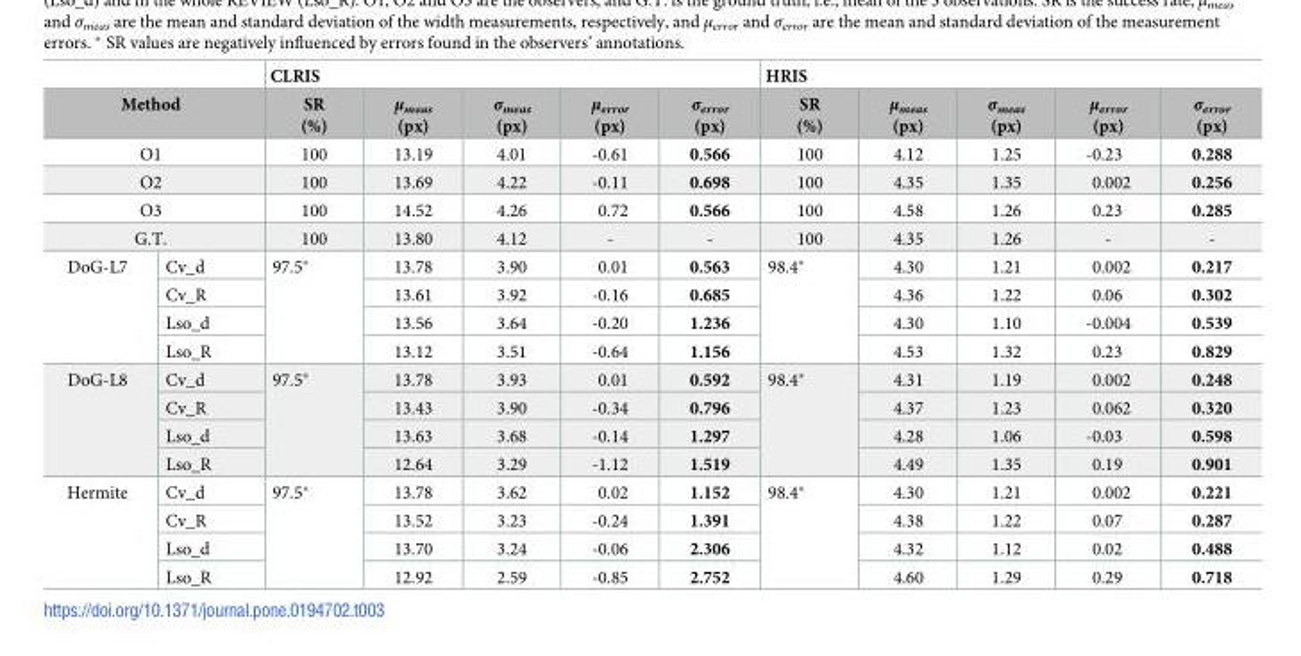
<table><thead><tr><td></td><td></td><td colspan="5">CLRIS</td><td colspan="5">HRIS</td></tr><tr><td colspan="2">Method</td><td>SR (%)</td><td>μ<sub>meas</sub> (px)</td><td>σ<sub>meas</sub> (px)</td><td>μ<sub>error</sub> (px)</td><td>σ<sub>error</sub> (px)</td><td>SR (%)</td><td>μ<sub>meas</sub> (px)</td><td>σ<sub>meas</sub> (px)</td><td>μ<sub>error</sub> (px)</td><td>σ<sub>error</sub> (px)</td></tr></thead><tbody><tr><td colspan="2">O1</td><td>100</td><td>13.19</td><td>4.01</td><td>-0.61</td><td>0.566</td><td>100</td><td>4.12</td><td>1.25</td><td>-0.23</td><td>0.288</td></tr><tr><td colspan="2">O2</td><td>100</td><td>13.69</td><td>4.22</td><td>-0.11</td><td>0.698</td><td>100</td><td>4.35</td><td>1.35</td><td>0.002</td><td>0.256</td></tr><tr><td colspan="2">O3</td><td>100</td><td>14.52</td><td>4.26</td><td>0.72</td><td>0.566</td><td>100</td><td>4.58</td><td>1.26</td><td>0.23</td><td>0.285</td></tr><tr><td colspan="2">G.T.</td><td>100</td><td>13.80</td><td>4.12</td><td>-</td><td>-</td><td>100</td><td>4.35</td><td>1.26</td><td>-</td><td>-</td></tr><tr><td rowspan="4">DoG-L7</td><td>Cv_d</td><td rowspan="4">97.5*</td><td>13.78</td><td>3.90</td><td>0.01</td><td>0.563</td><td rowspan="4">98.4*</td><td>4.30</td><td>1.21</td><td>0.002</td><td>0.217</td></tr><tr><td>Cv_R</td><td>13.61</td><td>3.92</td><td>-0.16</td><td>0.685</td><td>4.36</td><td>1.22</td><td>0.06</td><td>0.302</td></tr><tr><td>Lso_d</td><td>13.56</td><td>3.64</td><td>-0.20</td><td>1.236</td><td>4.30</td><td>1.10</td><td>-0.004</td><td>0.539</td></tr><tr><td>Lso_R</td><td>13.12</td><td>3.51</td><td>-0.64</td><td>1.156</td><td>4.53</td><td>1.32</td><td>0.23</td><td>0.829</td></tr><tr><td rowspan="4">DoG-L8</td><td>Cv_d</td><td rowspan="4">97.5*</td><td>13.78</td><td>3.93</td><td>0.01</td><td>0.592</td><td rowspan="4">98.4*</td><td>4.31</td><td>1.19</td><td>0.002</td><td>0.248</td></tr><tr><td>Cv_R</td><td>13.43</td><td>3.90</td><td>-0.34</td><td>0.796</td><td>4.37</td><td>1.23</td><td>0.062</td><td>0.320</td></tr><tr><td>Lso_d</td><td>13.63</td><td>3.68</td><td>-0.14</td><td>1.297</td><td>4.28</td><td>1.06</td><td>-0.03</td><td>0.598</td></tr><tr><td>Lso_R</td><td>12.64</td><td>3.29</td><td>-1.12</td><td>1.519</td><td>4.49</td><td>1.35</td><td>0.19</td><td>0.901</td></tr><tr><td rowspan="4">Hermite</td><td>Cv_d</td><td rowspan="4">97.5*</td><td>13.78</td><td>3.62</td><td>0.02</td><td>1.152</td><td rowspan="4">98.4*</td><td>4.30</td><td>1.21</td><td>0.002</td><td>0.221</td></tr><tr><td>Cv_R</td><td>13.52</td><td>3.23</td><td>-0.24</td><td>1.391</td><td>4.38</td><td>1.22</td><td>0.07</td><td>0.287</td></tr><tr><td>Lso_d</td><td>13.70</td><td>3.24</td><td>-0.06</td><td>2.306</td><td>4.32</td><td>1.12</td><td>0.02</td><td>0.488</td></tr><tr><td>Lso_R</td><td>12.92</td><td>2.59</td><td>-0.85</td><td>2.752</td><td>4.60</td><td>1.29</td><td>0.29</td><td>0.718</td></tr></tbody></table>